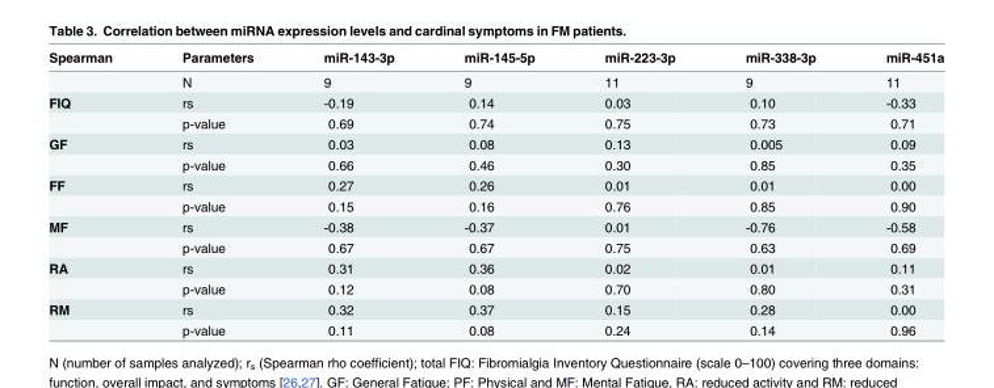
<table><thead><tr><td>Spearman</td><td>Parameters</td><td>miR-143-3p</td><td>miR-145-5p</td><td>miR-223-3p</td><td>miR-338-3p</td><td>miR-451a</td></tr></thead><tbody><tr><td></td><td>N</td><td>9</td><td>9</td><td>11</td><td>9</td><td>11</td></tr><tr><td rowspan="2">FIQ</td><td>rs</td><td>-0.19</td><td>0.14</td><td>0.03</td><td>0.10</td><td>-0.33</td></tr><tr><td>p-value</td><td>0.69</td><td>0.74</td><td>0.75</td><td>0.73</td><td>0.71</td></tr><tr><td rowspan="2">GF</td><td>rs</td><td>0.03</td><td>0.08</td><td>0.13</td><td>0.005</td><td>0.09</td></tr><tr><td>p-value</td><td>0.66</td><td>0.46</td><td>0.30</td><td>0.85</td><td>0.35</td></tr><tr><td rowspan="2">FF</td><td>rs</td><td>0.27</td><td>0.26</td><td>0.01</td><td>0.01</td><td>0.00</td></tr><tr><td>p-value</td><td>0.15</td><td>0.16</td><td>0.76</td><td>0.85</td><td>0.90</td></tr><tr><td rowspan="2">MF</td><td>rs</td><td>-0.38</td><td>-0.37</td><td>0.01</td><td>-0.76</td><td>-0.58</td></tr><tr><td>p-value</td><td>0.67</td><td>0.67</td><td>0.75</td><td>0.63</td><td>0.69</td></tr><tr><td rowspan="2">RA</td><td>rs</td><td>0.31</td><td>0.36</td><td>0.02</td><td>0.01</td><td>0.11</td></tr><tr><td>p-value</td><td>0.12</td><td>0.08</td><td>0.70</td><td>0.80</td><td>0.31</td></tr><tr><td rowspan="2">RM</td><td>rs</td><td>0.32</td><td>0.37</td><td>0.15</td><td>0.28</td><td>0.00</td></tr><tr><td>p-value</td><td>0.11</td><td>0.08</td><td>0.24</td><td>0.14</td><td>0.96</td></tr></tbody></table>